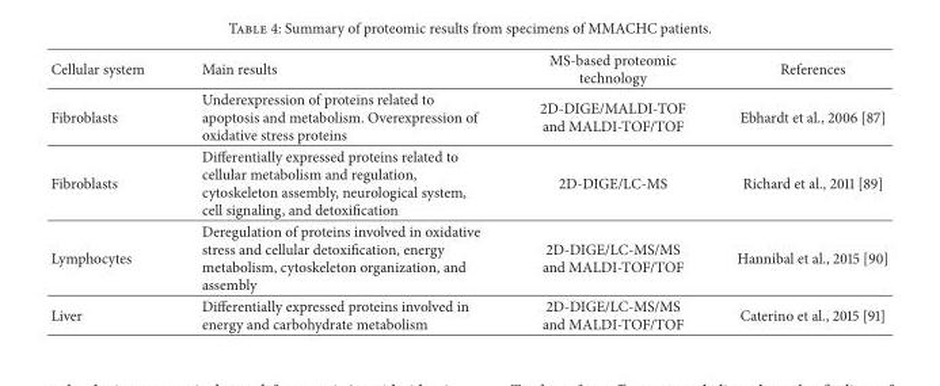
<table><thead><tr><td>Cellular system</td><td>Main results</td><td>MS-based proteomic technology</td><td>References</td></tr></thead><tbody><tr><td>Fibroblasts</td><td>Underexpression of proteins related to apoptosis and metabolism. Overexpression of oxidative stress proteins</td><td>2D-DIGE/MALDI-TOF and MALDI-TOF/TOF</td><td>Ebhardt et al., 2006 [87]</td></tr><tr><td>Fibroblasts</td><td>Differentially expressed proteins related to cellular metabolism and regulation, cytoskeleton assembly, neurological system, cell signaling, and detoxification</td><td>2D-DIGE/LC-MS</td><td>Richard et al., 2011 [89]</td></tr><tr><td>Lymphocytes</td><td>Deregulation of proteins involved in oxidative stress and cellular detoxification, energy metabolism, cytoskeleton organization, and assembly</td><td>2D-DIGE/LC-MS/MS and MALDI-TOF/TOF</td><td>Hannibal et al., 2015 [90]</td></tr><tr><td>Liver</td><td>Differentially expressed proteins involved in energy and carbohydrate metabolism</td><td>2D-DIGE/LC-MS/MS and MALDI-TOF/TOF</td><td>Caterino et al., 2015 [91]</td></tr></tbody></table>